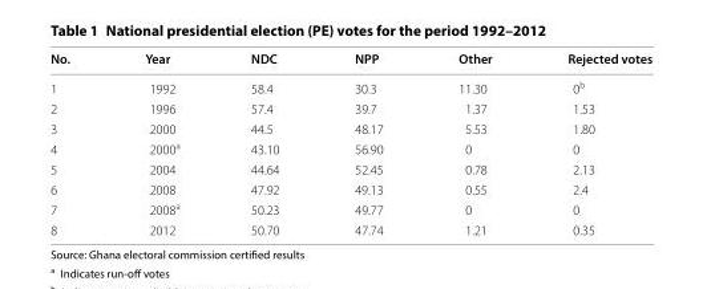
<table><thead><tr><td>No.</td><td>Year</td><td>NDC</td><td>NPP</td><td>Other</td><td>Rejected votes</td></tr></thead><tbody><tr><td>1</td><td>1992</td><td>58.4</td><td>30.3</td><td>11.30</td><td>0<sup>b</sup></td></tr><tr><td>2</td><td>1996</td><td>57.4</td><td>39.7</td><td>1.37</td><td>1.53</td></tr><tr><td>3</td><td>2000</td><td>44.5</td><td>48.17</td><td>5.53</td><td>1.80</td></tr><tr><td>4</td><td>2000<sup>a</sup></td><td>43.10</td><td>56.90</td><td>0</td><td>0</td></tr><tr><td>5</td><td>2004</td><td>44.64</td><td>52.45</td><td>0.78</td><td>2.13</td></tr><tr><td>6</td><td>2008</td><td>47.92</td><td>49.13</td><td>0.55</td><td>2.4</td></tr><tr><td>7</td><td>2008<sup>a</sup></td><td>50.23</td><td>49.77</td><td>0</td><td>0</td></tr><tr><td>8</td><td>2012</td><td>50.70</td><td>47.74</td><td>1.21</td><td>0.35</td></tr></tbody></table>